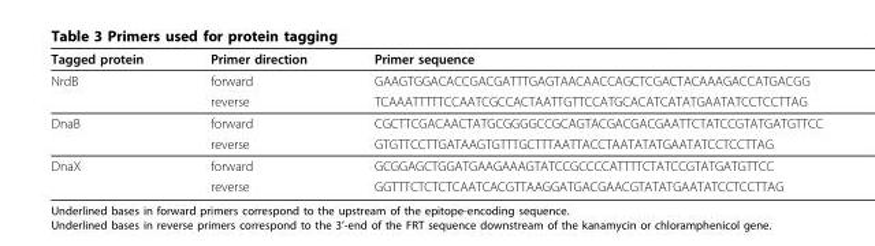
<table><thead><tr><td>Tagged protein</td><td>Primer direction</td><td>Primer sequence</td></tr></thead><tbody><tr><td rowspan="2">NrdB</td><td>forward</td><td>GAAGTGGACACCGACGATTTGAGTAACAACCAGCTCGACTACAAAGACCATGACGG</td></tr><tr><td>reverse</td><td>TCAAATTTTTCCAATCGCCACTAATTGTTCCATGCACATCATATGAATATCCTCCTTAG</td></tr><tr><td rowspan="2">DnaB</td><td>forward</td><td>CGCTTCGACAACTATGCGGGGCCGCAGTACGACGACGAATTCTATCCGTATGATGTTCC</td></tr><tr><td>reverse</td><td>GTGTTCCTTGATAAGTGTTTGCTTTAATTACCTAATATATGAATATCCTCCTTAG</td></tr><tr><td rowspan="2">DnaX</td><td>forward</td><td>GCGGAGCTGGATGAAGAAAGTATCCGCCCCATTTTCTATCCGTATGATGTTCC</td></tr><tr><td>reverse</td><td>GGTTTCTCTCTCAATCACGTTAAGGATGACGAACGTATATGAATATCCTCCTTAG</td></tr></tbody></table>